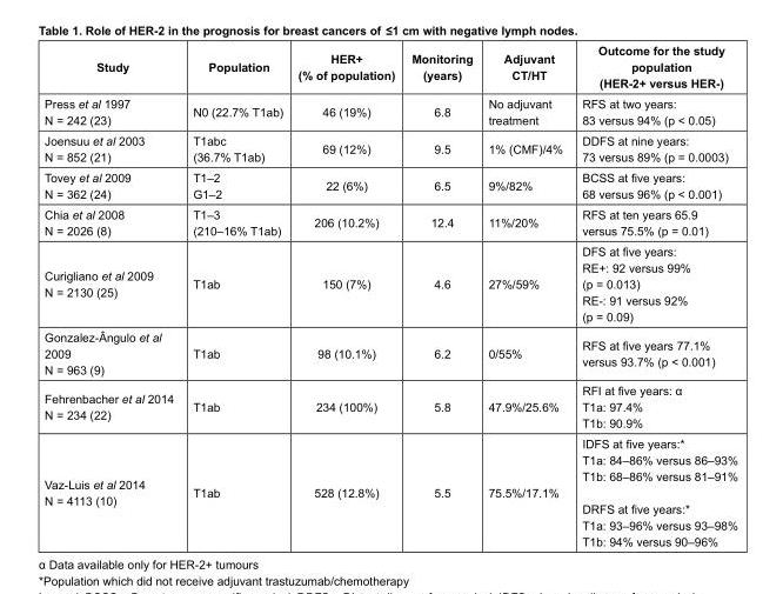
<table><thead><tr><td>Study</td><td>Population</td><td>HER+ (% of population)</td><td>Monitoring (years)</td><td>Adjuvant CT/HT</td><td>Outcome for the study population (HER-2+ versus HER-)</td></tr></thead><tbody><tr><td>Press et al 1997 N = 242 (23)</td><td>N0 (22.7% T1ab)</td><td>46 (19%)</td><td>6.8</td><td>No adjuvant treatment</td><td>RFS at two years: 83 versus 94% (p &lt; 0.05)</td></tr><tr><td>Joensuu et al 2003 N = 852 (21)</td><td>T1abc (36.7% T1ab)</td><td>69 (12%)</td><td>9.5</td><td>1% (CMF)/4%</td><td>DDFS at nine years: 73 versus 89% (p = 0.0003)</td></tr><tr><td>Tovey et al 2009 N = 362 (24)</td><td>T1–2 G1–2</td><td>22 (6%)</td><td>6.5</td><td>9%/82%</td><td>BCSS at five years: 68 versus 96% (p &lt; 0.001)</td></tr><tr><td>Chia et al 2008 N = 2026 (8)</td><td>T1–3 (210–16% T1ab)</td><td>206 (10.2%)</td><td>12.4</td><td>11%/20%</td><td>RFS at ten years 65.9 versus 75.5% (p = 0.01)</td></tr><tr><td>Curigliano et al 2009 N = 2130 (25)</td><td>T1ab</td><td>150 (7%)</td><td>4.6</td><td>27%/59%</td><td>DFS at five years: RE+: 92 versus 99% (p = 0.013) RE-: 91 versus 92% (p = 0.09)</td></tr><tr><td>Gonzalez-Ângulo et al 2009 N = 963 (9)</td><td>T1ab</td><td>98 (10.1%)</td><td>6.2</td><td>0/55%</td><td>RFS at five years 77.1% versus 93.7% (p &lt; 0.001)</td></tr><tr><td>Fehrenbacher et al 2014 N = 234 (22)</td><td>T1ab</td><td>234 (100%)</td><td>5.8</td><td>47.9%/25.6%</td><td>RFI at five years: α T1a: 97.4% T1b: 90.9%</td></tr><tr><td>Vaz-Luis et al 2014 N = 4113 (10)</td><td>T1ab</td><td>528 (12.8%)</td><td>5.5</td><td>75.5%/17.1%</td><td>IDFS at five years:* T1a: 84–86% versus 86–93% T1b: 68–86% versus 81–91% DRFS at five years:* T1a: 93–96% versus 93–98% T1b: 94% versus 90–96%</td></tr></tbody></table>